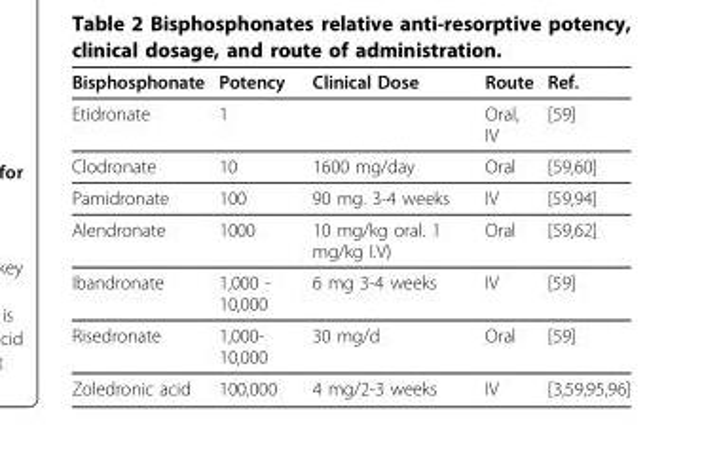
<table><thead><tr><td>Bisphosphonate</td><td>Potency</td><td>Clinical Dose</td><td>Route</td><td>Ref.</td></tr></thead><tbody><tr><td>Etidronate</td><td>1</td><td></td><td>Oral, IV</td><td>[59]</td></tr><tr><td>Clodronate</td><td>10</td><td>1600 mg/day</td><td>Oral</td><td>[59,60]</td></tr><tr><td>Pamidronate</td><td>100</td><td>90 mg. 3-4 weeks</td><td>IV</td><td>[59,94]</td></tr><tr><td>Alendronate</td><td>1000</td><td>10 mg/kg oral. 1 mg/kg I.V)</td><td>Oral</td><td>[59,62]</td></tr><tr><td>Ibandronate</td><td>1,000 - 10,000</td><td>6 mg 3-4 weeks</td><td>IV</td><td>[59]</td></tr><tr><td>Risedronate</td><td>1,000- 10,000</td><td>30 mg/d</td><td>Oral</td><td>[59]</td></tr><tr><td>Zoledronic acid</td><td>100,000</td><td>4 mg/2-3 weeks</td><td>IV</td><td>[3,59,95,96]</td></tr></tbody></table>